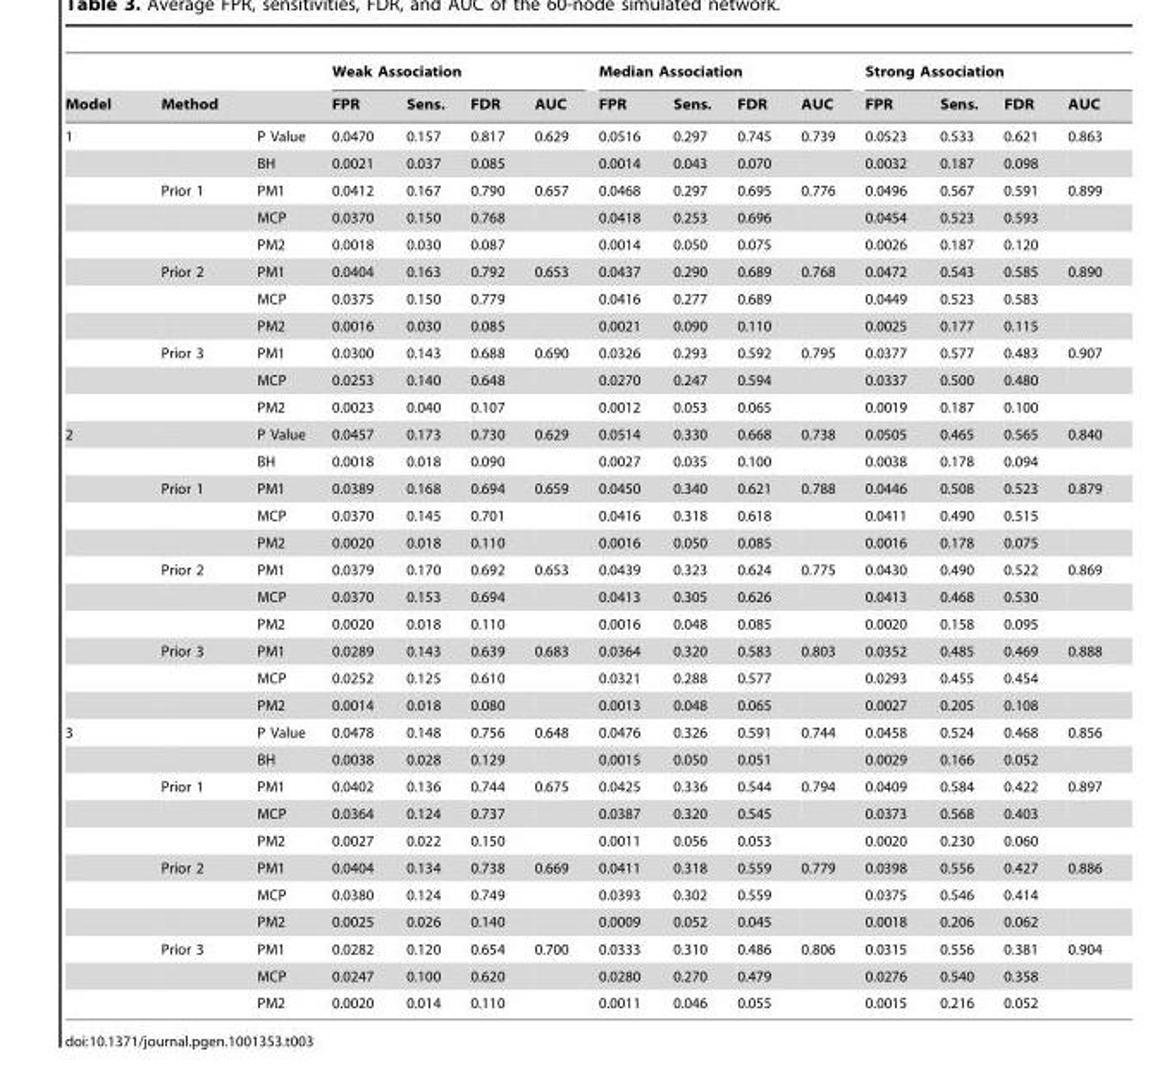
<table><thead><tr><td rowspan="2">Model</td><td></td><td></td><td colspan="4">Weak Association</td><td colspan="4">Median Association</td><td colspan="4">Strong Association</td></tr><tr><td colspan="2">Method</td><td>FPR</td><td>Sens.</td><td>FDR</td><td>AUC</td><td>FPR</td><td>Sens.</td><td>FDR</td><td>AUC</td><td>FPR</td><td>Sens.</td><td>FDR</td><td>AUC</td></tr></thead><tbody><tr><td rowspan="11">1</td><td></td><td>P Value</td><td>0.0470</td><td>0.157</td><td>0.817</td><td>0.629</td><td>0.0516</td><td>0.297</td><td>0.745</td><td>0.739</td><td>0.0523</td><td>0.533</td><td>0.621</td><td>0.863</td></tr><tr><td></td><td>BH</td><td>0.0021</td><td>0.037</td><td>0.085</td><td></td><td>0.0014</td><td>0.043</td><td>0.070</td><td></td><td>0.0032</td><td>0.187</td><td>0.098</td><td></td></tr><tr><td>Prior 1</td><td>PM1</td><td>0.0412</td><td>0.167</td><td>0.790</td><td>0.657</td><td>0.0468</td><td>0.297</td><td>0.695</td><td>0.776</td><td>0.0496</td><td>0.567</td><td>0.591</td><td>0.899</td></tr><tr><td></td><td>MCP</td><td>0.0370</td><td>0.150</td><td>0.768</td><td></td><td>0.0418</td><td>0.253</td><td>0.696</td><td></td><td>0.0454</td><td>0.523</td><td>0.593</td><td></td></tr><tr><td></td><td>PM2</td><td>0.0018</td><td>0.030</td><td>0.087</td><td></td><td>0.0014</td><td>0.050</td><td>0.075</td><td></td><td>0.0026</td><td>0.187</td><td>0.120</td><td></td></tr><tr><td>Prior 2</td><td>PM1</td><td>0.0404</td><td>0.163</td><td>0.792</td><td>0.653</td><td>0.0437</td><td>0.290</td><td>0.689</td><td>0.768</td><td>0.0472</td><td>0.543</td><td>0.585</td><td>0.890</td></tr><tr><td></td><td>MCP</td><td>0.0375</td><td>0.150</td><td>0.779</td><td></td><td>0.0416</td><td>0.277</td><td>0.689</td><td></td><td>0.0449</td><td>0.523</td><td>0.583</td><td></td></tr><tr><td></td><td>PM2</td><td>0.0016</td><td>0.030</td><td>0.085</td><td></td><td>0.0021</td><td>0.090</td><td>0.110</td><td></td><td>0.0025</td><td>0.177</td><td>0.115</td><td></td></tr><tr><td>Prior 3</td><td>PM1</td><td>0.0300</td><td>0.143</td><td>0.688</td><td>0.690</td><td>0.0326</td><td>0.293</td><td>0.592</td><td>0.795</td><td>0.0377</td><td>0.577</td><td>0.483</td><td>0.907</td></tr><tr><td></td><td>MCP</td><td>0.0253</td><td>0.140</td><td>0.648</td><td></td><td>0.0270</td><td>0.247</td><td>0.594</td><td></td><td>0.0337</td><td>0.500</td><td>0.480</td><td></td></tr><tr><td></td><td>PM2</td><td>0.0023</td><td>0.040</td><td>0.107</td><td></td><td>0.0012</td><td>0.053</td><td>0.065</td><td></td><td>0.0019</td><td>0.187</td><td>0.100</td><td></td></tr><tr><td rowspan="11">2</td><td></td><td>P Value</td><td>0.0457</td><td>0.173</td><td>0.730</td><td>0.629</td><td>0.0514</td><td>0.330</td><td>0.668</td><td>0.738</td><td>0.0505</td><td>0.465</td><td>0.565</td><td>0.840</td></tr><tr><td></td><td>BH</td><td>0.0018</td><td>0.018</td><td>0.090</td><td></td><td>0.0027</td><td>0.035</td><td>0.100</td><td></td><td>0.0038</td><td>0.178</td><td>0.094</td><td></td></tr><tr><td>Prior 1</td><td>PM1</td><td>0.0389</td><td>0.168</td><td>0.694</td><td>0.659</td><td>0.0450</td><td>0.340</td><td>0.621</td><td>0.788</td><td>0.0446</td><td>0.508</td><td>0.523</td><td>0.879</td></tr><tr><td></td><td>MCP</td><td>0.0370</td><td>0.145</td><td>0.701</td><td></td><td>0.0416</td><td>0.318</td><td>0.618</td><td></td><td>0.0411</td><td>0.490</td><td>0.515</td><td></td></tr><tr><td></td><td>PM2</td><td>0.0020</td><td>0.018</td><td>0.110</td><td></td><td>0.0016</td><td>0.050</td><td>0.085</td><td></td><td>0.0016</td><td>0.178</td><td>0.075</td><td></td></tr><tr><td>Prior 2</td><td>PM1</td><td>0.0379</td><td>0.170</td><td>0.692</td><td>0.653</td><td>0.0439</td><td>0.323</td><td>0.624</td><td>0.775</td><td>0.0430</td><td>0.490</td><td>0.522</td><td>0.869</td></tr><tr><td></td><td>MCP</td><td>0.0370</td><td>0.153</td><td>0.694</td><td></td><td>0.0413</td><td>0.305</td><td>0.626</td><td></td><td>0.0413</td><td>0.468</td><td>0.530</td><td></td></tr><tr><td></td><td>PM2</td><td>0.0020</td><td>0.018</td><td>0.110</td><td></td><td>0.0016</td><td>0.048</td><td>0.085</td><td></td><td>0.0020</td><td>0.158</td><td>0.095</td><td></td></tr><tr><td>Prior 3</td><td>PM1</td><td>0.0289</td><td>0.143</td><td>0.639</td><td>0.683</td><td>0.0364</td><td>0.320</td><td>0.583</td><td>0.803</td><td>0.0352</td><td>0.485</td><td>0.469</td><td>0.888</td></tr><tr><td></td><td>MCP</td><td>0.0252</td><td>0.125</td><td>0.610</td><td></td><td>0.0321</td><td>0.288</td><td>0.577</td><td></td><td>0.0293</td><td>0.455</td><td>0.454</td><td></td></tr><tr><td></td><td>PM2</td><td>0.0014</td><td>0.018</td><td>0.080</td><td></td><td>0.0013</td><td>0.048</td><td>0.065</td><td></td><td>0.0027</td><td>0.205</td><td>0.108</td><td></td></tr><tr><td rowspan="11">3</td><td></td><td>P Value</td><td>0.0478</td><td>0.148</td><td>0.756</td><td>0.648</td><td>0.0476</td><td>0.326</td><td>0.591</td><td>0.744</td><td>0.0458</td><td>0.524</td><td>0.468</td><td>0.856</td></tr><tr><td></td><td>BH</td><td>0.0038</td><td>0.028</td><td>0.129</td><td></td><td>0.0015</td><td>0.050</td><td>0.051</td><td></td><td>0.0029</td><td>0.166</td><td>0.052</td><td></td></tr><tr><td>Prior 1</td><td>PM1</td><td>0.0402</td><td>0.136</td><td>0.744</td><td>0.675</td><td>0.0425</td><td>0.336</td><td>0.544</td><td>0.794</td><td>0.0409</td><td>0.584</td><td>0.422</td><td>0.897</td></tr><tr><td></td><td>MCP</td><td>0.0364</td><td>0.124</td><td>0.737</td><td></td><td>0.0387</td><td>0.320</td><td>0.545</td><td></td><td>0.0373</td><td>0.568</td><td>0.403</td><td></td></tr><tr><td></td><td>PM2</td><td>0.0027</td><td>0.022</td><td>0.150</td><td></td><td>0.0011</td><td>0.056</td><td>0.053</td><td></td><td>0.0020</td><td>0.230</td><td>0.060</td><td></td></tr><tr><td>Prior 2</td><td>PM1</td><td>0.0404</td><td>0.134</td><td>0.738</td><td>0.669</td><td>0.0411</td><td>0.318</td><td>0.559</td><td>0.779</td><td>0.0398</td><td>0.556</td><td>0.427</td><td>0.886</td></tr><tr><td></td><td>MCP</td><td>0.0380</td><td>0.124</td><td>0.749</td><td></td><td>0.0393</td><td>0.302</td><td>0.559</td><td></td><td>0.0375</td><td>0.546</td><td>0.414</td><td></td></tr><tr><td></td><td>PM2</td><td>0.0025</td><td>0.026</td><td>0.140</td><td></td><td>0.0009</td><td>0.052</td><td>0.045</td><td></td><td>0.0018</td><td>0.206</td><td>0.062</td><td></td></tr><tr><td>Prior 3</td><td>PM1</td><td>0.0282</td><td>0.120</td><td>0.654</td><td>0.700</td><td>0.0333</td><td>0.310</td><td>0.486</td><td>0.806</td><td>0.0315</td><td>0.556</td><td>0.381</td><td>0.904</td></tr><tr><td></td><td>MCP</td><td>0.0247</td><td>0.100</td><td>0.620</td><td></td><td>0.0280</td><td>0.270</td><td>0.479</td><td></td><td>0.0276</td><td>0.540</td><td>0.358</td><td></td></tr><tr><td></td><td>PM2</td><td>0.0020</td><td>0.014</td><td>0.110</td><td></td><td>0.0011</td><td>0.046</td><td>0.055</td><td></td><td>0.0015</td><td>0.216</td><td>0.052</td><td></td></tr></tbody></table>